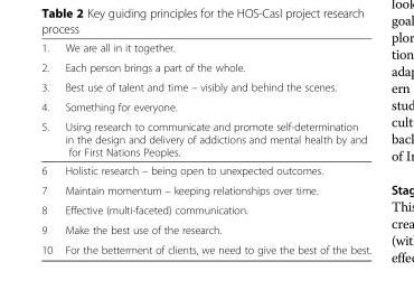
<table><tbody><tr><td>1.</td><td>We are all in it together.</td></tr><tr><td>2.</td><td>Each person brings a part of the whole.</td></tr><tr><td>3.</td><td>Best use of talent and time – visibly and behind the scenes.</td></tr><tr><td>4.</td><td>Something for everyone.</td></tr><tr><td>5.</td><td>Using research to communicate and promote self-determination in the design and delivery of addictions and mental health by and for First Nations Peoples.</td></tr><tr><td>6</td><td>Holistic research – being open to unexpected outcomes.</td></tr><tr><td>7</td><td>Maintain momentum – keeping relationships over time.</td></tr><tr><td>8</td><td>Effective (multi-faceted) communication.</td></tr><tr><td>9</td><td>Make the best use of the research.</td></tr><tr><td>10</td><td>For the betterment of clients, we need to give the best of the best.</td></tr></tbody></table>